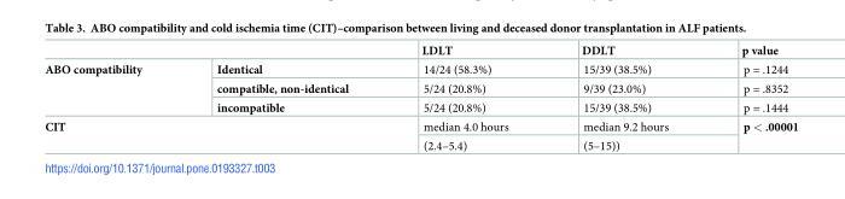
<table><thead><tr><td></td><td></td><td>LDLT</td><td>DDLT</td><td>p value</td></tr></thead><tbody><tr><td rowspan="3">ABO compatibility</td><td>Identical</td><td>14/24 (58.3%)</td><td>15/39 (38.5%)</td><td>p = .1244</td></tr><tr><td>compatible, non-identical</td><td>5/24 (20.8%)</td><td>9/39 (23.0%)</td><td>p = .8352</td></tr><tr><td>incompatible</td><td>5/24 (20.8%)</td><td>15/39 (38.5%)</td><td>p = .1444</td></tr><tr><td rowspan="2" colspan="2">CIT</td><td>median 4.0 hours</td><td>median 9.2 hours</td><td rowspan="2">p &lt; .00001</td></tr><tr><td>(2.4–5.4)</td><td>(5–15))</td></tr></tbody></table>